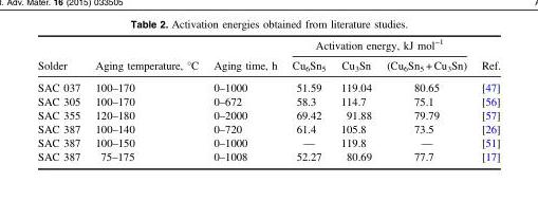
<table><thead><tr><td rowspan="2">Solder</td><td rowspan="2">Aging temperature, °C</td><td rowspan="2">Aging time, h</td><td colspan="4">Activation energy, kJ mol<sup>−1</sup></td></tr><tr><td>Cu<sub>6</sub>Sn<sub>5</sub></td><td>Cu<sub>3</sub>Sn</td><td>(Cu<sub>6</sub>Sn<sub>5</sub> + Cu<sub>3</sub>Sn)</td><td>Ref.</td></tr></thead><tbody><tr><td>SAC 037</td><td>100–170</td><td>0–1000</td><td>51.59</td><td>119.04</td><td>80.65</td><td>[47]</td></tr><tr><td>SAC 305</td><td>100–170</td><td>0–672</td><td>58.3</td><td>114.7</td><td>75.1</td><td>[56]</td></tr><tr><td>SAC 355</td><td>120–180</td><td>0–2000</td><td>69.42</td><td>91.88</td><td>79.79</td><td>[57]</td></tr><tr><td>SAC 387</td><td>100–140</td><td>0–720</td><td>61.4</td><td>105.8</td><td>73.5</td><td>[26]</td></tr><tr><td>SAC 387</td><td>100–150</td><td>0–1000</td><td>—</td><td>119.8</td><td>—</td><td>[51]</td></tr><tr><td>SAC 387</td><td>75–175</td><td>0–1008</td><td>52.27</td><td>80.69</td><td>77.7</td><td>[17]</td></tr></tbody></table>